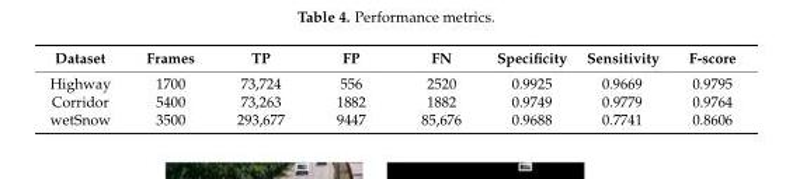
<table><thead><tr><td>Dataset</td><td>Frames</td><td>TP</td><td>FP</td><td>FN</td><td>Specificity</td><td>Sensitivity</td><td>F-score</td></tr></thead><tbody><tr><td>Highway</td><td>1700</td><td>73,724</td><td>556</td><td>2520</td><td>0.9925</td><td>0.9669</td><td>0.9795</td></tr><tr><td>Corridor</td><td>5400</td><td>73,263</td><td>1882</td><td>1882</td><td>0.9749</td><td>0.9779</td><td>0.9764</td></tr><tr><td>wetSnow</td><td>3500</td><td>293,677</td><td>9447</td><td>85,676</td><td>0.9688</td><td>0.7741</td><td>0.8606</td></tr></tbody></table>